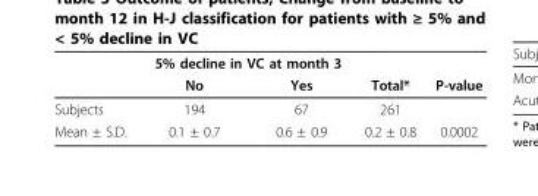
<table><thead><tr><td rowspan="2"></td><td colspan="2">5% decline in VC at month 3</td><td rowspan="2">Total*</td><td rowspan="2">P-value</td></tr><tr><td>No</td><td>Yes</td></tr></thead><tbody><tr><td>Subjects</td><td>194</td><td>67</td><td>261</td><td></td></tr><tr><td>Mean ± S.D.</td><td>0.1 ± 0.7</td><td>0.6 ± 0.9</td><td>0.2 ± 0.8</td><td>0.0002</td></tr></tbody></table>